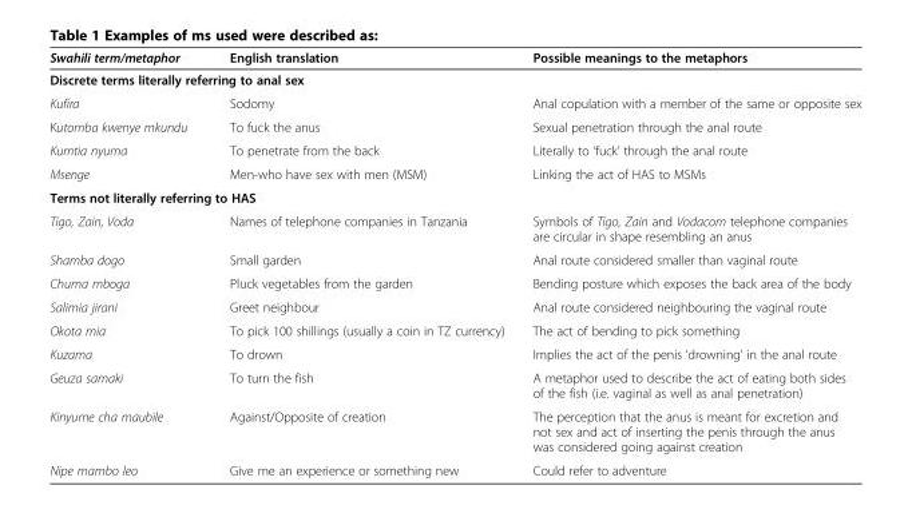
<table><thead><tr><td>Swahili term/metaphor</td><td>English translation</td><td>Possible meanings to the metaphors</td></tr></thead><tbody><tr><td colspan="3">Discrete terms literally referring to anal sex</td></tr><tr><td>Kufira</td><td>Sodomy</td><td>Anal copulation with a member of the same or opposite sex</td></tr><tr><td>Kutomba kwenye mkundu</td><td>To fuck the anus</td><td>Sexual penetration through the anal route</td></tr><tr><td>Kumtia nyuma</td><td>To penetrate from the back</td><td>Literally to ‘fuck’ through the anal route</td></tr><tr><td>Msenge</td><td>Men-who have sex with men (MSM)</td><td>Linking the act of HAS to MSMs</td></tr><tr><td colspan="3">Terms not literally referring to HAS</td></tr><tr><td>Tigo, Zain, Voda</td><td>Names of telephone companies in Tanzania</td><td>Symbols of Tigo, Zain and Vodacom telephone companies are circular in shape resembling an anus</td></tr><tr><td>Shamba dogo</td><td>Small garden</td><td>Anal route considered smaller than vaginal route</td></tr><tr><td>Chuma mboga</td><td>Pluck vegetables from the garden</td><td>Bending posture which exposes the back area of the body</td></tr><tr><td>Salimia jirani</td><td>Greet neighbour</td><td>Anal route considered neighbouring the vaginal route</td></tr><tr><td>Okota mia</td><td>To pick 100 shillings (usually a coin in TZ currency)</td><td>The act of bending to pick something</td></tr><tr><td>Kuzama</td><td>To drown</td><td>Implies the act of the penis ‘drowning’ in the anal route</td></tr><tr><td>Geuza samaki</td><td>To turn the fish</td><td>A metaphor used to describe the act of eating both sides of the fish (i.e. vaginal as well as anal penetration)</td></tr><tr><td>Kinyume cha maubile</td><td>Against/Opposite of creation</td><td>The perception that the anus is meant for excretion and not sex and act of inserting the penis through the anus was considered going against creation</td></tr><tr><td>Nipe mambo leo</td><td>Give me an experience or something new</td><td>Could refer to adventure</td></tr></tbody></table>